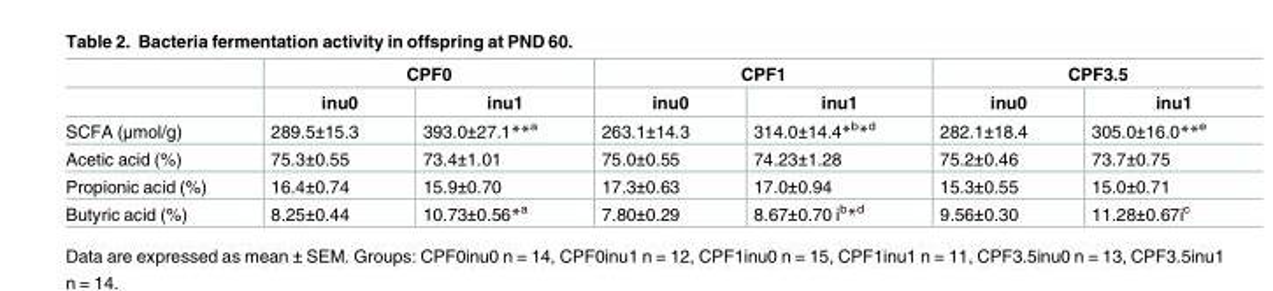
<table><thead><tr><td rowspan="2"></td><td colspan="2">CPF0</td><td colspan="2">CPF1</td><td colspan="2">CPF3.5</td></tr><tr><td>inu0</td><td>inu1</td><td>inu0</td><td>inu1</td><td>inu0</td><td>inu1</td></tr></thead><tbody><tr><td>SCFA (μmol/g)</td><td>289.5±15.3</td><td>393.0±27.1**<sup>a</sup></td><td>263.1±14.3</td><td>314.0±14.4*<sup>b</sup>*<sup>d</sup></td><td>282.1±18.4</td><td>305.0±16.0**<sup>e</sup></td></tr><tr><td>Acetic acid (%)</td><td>75.3±0.55</td><td>73.4±1.01</td><td>75.0±0.55</td><td>74.23±1.28</td><td>75.2±0.46</td><td>73.7±0.75</td></tr><tr><td>Propionic acid (%)</td><td>16.4±0.74</td><td>15.9±0.70</td><td>17.3±0.63</td><td>17.0±0.94</td><td>15.3±0.55</td><td>15.0±0.71</td></tr><tr><td>Butyric acid (%)</td><td>8.25±0.44</td><td>10.73±0.56*<sup>a</sup></td><td>7.80±0.29</td><td>8.67±0.70 i<sup>b</sup>*<sup>d</sup></td><td>9.56±0.30</td><td>11.28±0.67i<sup>c</sup></td></tr></tbody></table>